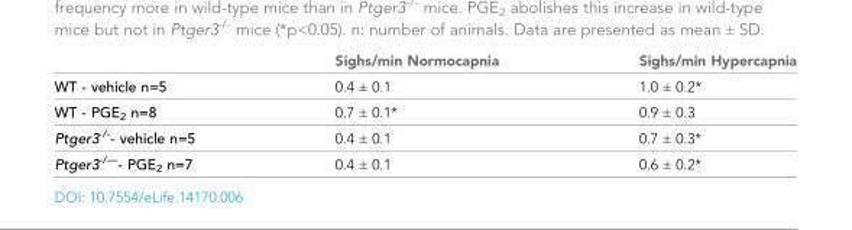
<table><thead><tr><td></td><td>Sighs/min Normocapnia</td><td>Sighs/min Hypercapnia</td></tr></thead><tbody><tr><td>WT - vehicle n=5</td><td>0.4 ± 0.1</td><td>1.0 ± 0.2*</td></tr><tr><td>WT - PGE<sub>2</sub> n=8</td><td>0.7 ± 0.1*</td><td>0.9 ± 0.3</td></tr><tr><td>Ptger3<sup>-/-</sup>- vehicle n=5</td><td>0.4 ± 0.1</td><td>0.7 ± 0.3*</td></tr><tr><td>Ptger3<sup>-/—</sup>- PGE<sub>2</sub> n=7</td><td>0.4 ± 0.1</td><td>0.6 ± 0.2*</td></tr></tbody></table>